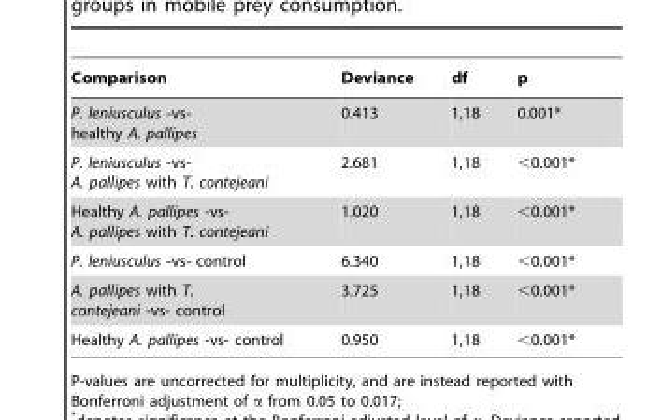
<table><thead><tr><td>Comparison</td><td>Deviance</td><td>df</td><td>p</td></tr></thead><tbody><tr><td>P. leniusculus -vs- healthy A. pallipes</td><td>0.413</td><td>1,18</td><td>0.001*</td></tr><tr><td>P. leniusculus -vs- A. pallipes with T. contejeani</td><td>2.681</td><td>1,18</td><td>&lt;0.001*</td></tr><tr><td>Healthy A. pallipes -vs- A. pallipes with T. contejeani</td><td>1.020</td><td>1,18</td><td>&lt;0.001*</td></tr><tr><td>P. leniusculus -vs- control</td><td>6.340</td><td>1,18</td><td>&lt;0.001*</td></tr><tr><td>A. pallipes with T. contejeani -vs- control</td><td>3.725</td><td>1,18</td><td>&lt;0.001*</td></tr><tr><td>Healthy A. pallipes -vs- control</td><td>0.950</td><td>1,18</td><td>&lt;0.001*</td></tr></tbody></table>